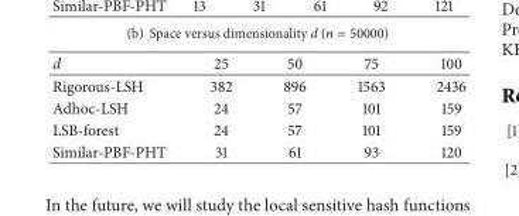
<table><thead><tr><td>d</td><td>25</td><td>50</td><td>75</td><td>100</td></tr></thead><tbody><tr><td>Rigorous-LSH</td><td>382</td><td>896</td><td>1563</td><td>2436</td></tr><tr><td>Adhoc-LSH</td><td>24</td><td>57</td><td>101</td><td>159</td></tr><tr><td>LSB-forest</td><td>24</td><td>57</td><td>101</td><td>159</td></tr><tr><td>Similar-PBF-PHT</td><td>31</td><td>61</td><td>93</td><td>120</td></tr></tbody></table>